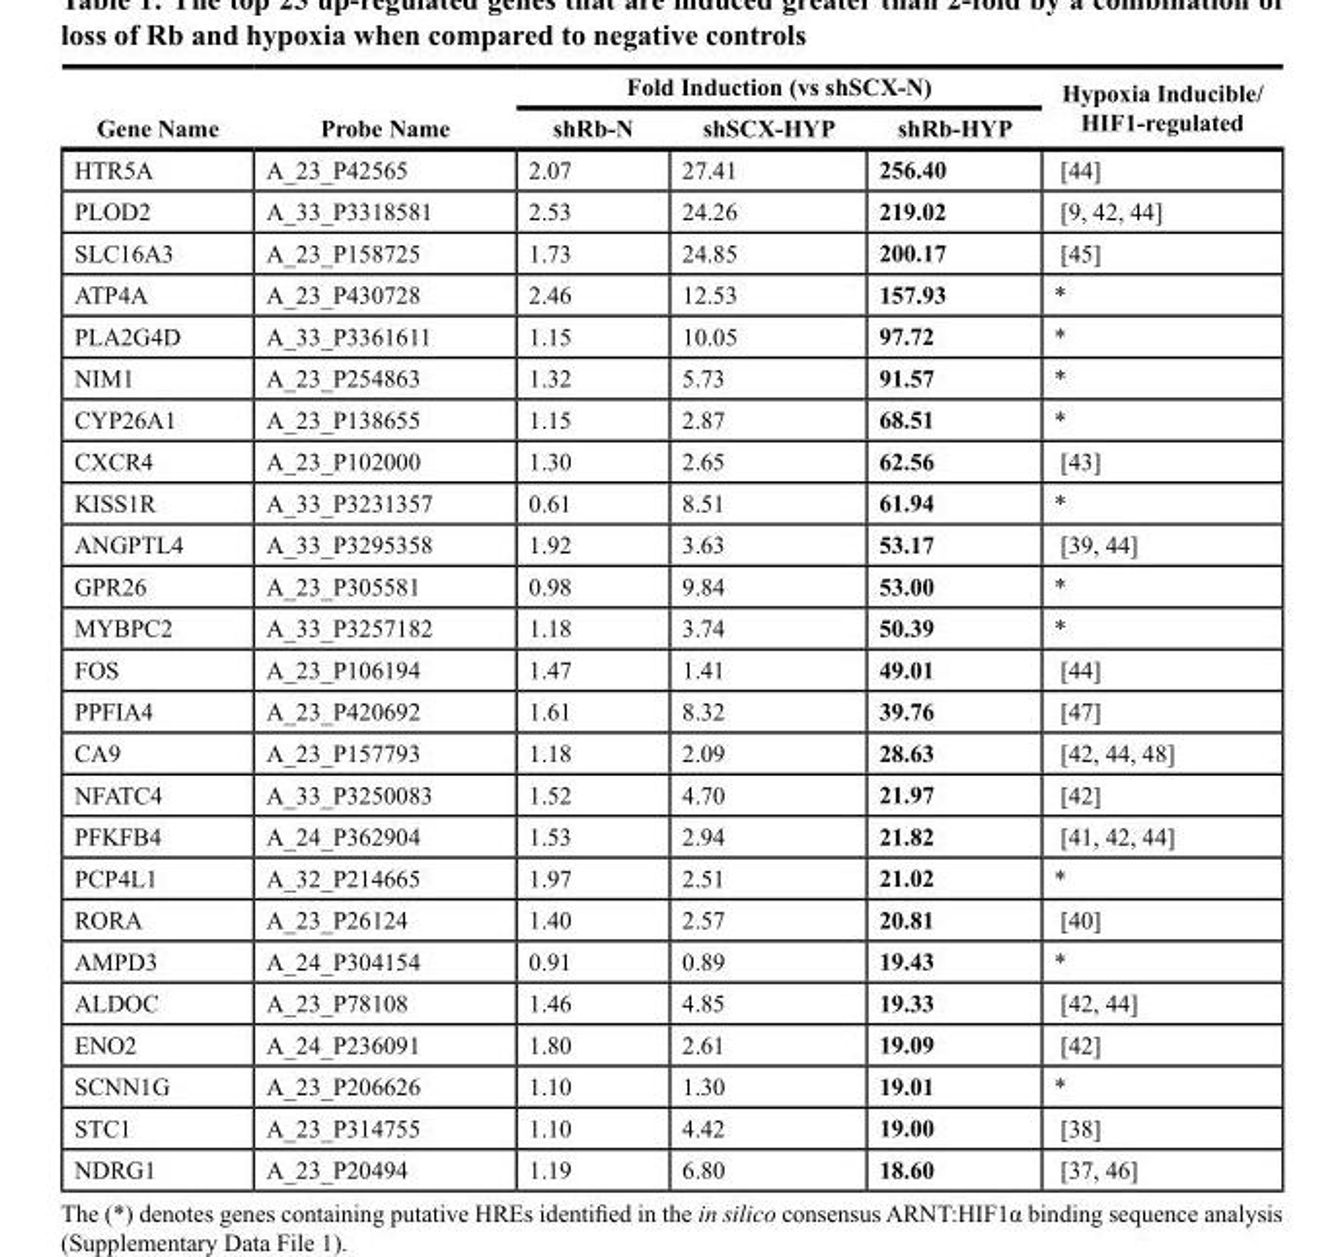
<table><thead><tr><td rowspan="2">Gene Name</td><td rowspan="2">Probe Name</td><td colspan="3">Fold Induction (vs shSCX-N)</td><td rowspan="2">Hypoxia Inducible/ HIF1-regulated</td></tr><tr><td>shRb-N</td><td>shSCX-HYP</td><td>shRb-HYP</td></tr></thead><tbody><tr><td>HTR5A</td><td>A_23_P42565</td><td>2.07</td><td>27.41</td><td>256.40</td><td>[44]</td></tr><tr><td>PLOD2</td><td>A_33_P3318581</td><td>2.53</td><td>24.26</td><td>219.02</td><td>[9, 42, 44]</td></tr><tr><td>SLC16A3</td><td>A_23_P158725</td><td>1.73</td><td>24.85</td><td>200.17</td><td>[45]</td></tr><tr><td>ATP4A</td><td>A_23_P430728</td><td>2.46</td><td>12.53</td><td>157.93</td><td>*</td></tr><tr><td>PLA2G4D</td><td>A_33_P3361611</td><td>1.15</td><td>10.05</td><td>97.72</td><td>*</td></tr><tr><td>NIM1</td><td>A_23_P254863</td><td>1.32</td><td>5.73</td><td>91.57</td><td>*</td></tr><tr><td>CYP26A1</td><td>A_23_P138655</td><td>1.15</td><td>2.87</td><td>68.51</td><td>*</td></tr><tr><td>CXCR4</td><td>A_23_P102000</td><td>1.30</td><td>2.65</td><td>62.56</td><td>[43]</td></tr><tr><td>KISS1R</td><td>A_33_P3231357</td><td>0.61</td><td>8.51</td><td>61.94</td><td>*</td></tr><tr><td>ANGPTL4</td><td>A_33_P3295358</td><td>1.92</td><td>3.63</td><td>53.17</td><td>[39, 44]</td></tr><tr><td>GPR26</td><td>A_23_P305581</td><td>0.98</td><td>9.84</td><td>53.00</td><td>*</td></tr><tr><td>MYBPC2</td><td>A_33_P3257182</td><td>1.18</td><td>3.74</td><td>50.39</td><td>*</td></tr><tr><td>FOS</td><td>A_23_P106194</td><td>1.47</td><td>1.41</td><td>49.01</td><td>[44]</td></tr><tr><td>PPFIA4</td><td>A_23_P420692</td><td>1.61</td><td>8.32</td><td>39.76</td><td>[47]</td></tr><tr><td>CA9</td><td>A_23_P157793</td><td>1.18</td><td>2.09</td><td>28.63</td><td>[42, 44, 48]</td></tr><tr><td>NFATC4</td><td>A_33_P3250083</td><td>1.52</td><td>4.70</td><td>21.97</td><td>[42]</td></tr><tr><td>PFKFB4</td><td>A_24_P362904</td><td>1.53</td><td>2.94</td><td>21.82</td><td>[41, 42, 44]</td></tr><tr><td>PCP4L1</td><td>A_32_P214665</td><td>1.97</td><td>2.51</td><td>21.02</td><td>*</td></tr><tr><td>RORA</td><td>A_23_P26124</td><td>1.40</td><td>2.57</td><td>20.81</td><td>[40]</td></tr><tr><td>AMPD3</td><td>A_24_P304154</td><td>0.91</td><td>0.89</td><td>19.43</td><td>*</td></tr><tr><td>ALDOC</td><td>A_23_P78108</td><td>1.46</td><td>4.85</td><td>19.33</td><td>[42, 44]</td></tr><tr><td>ENO2</td><td>A_24_P236091</td><td>1.80</td><td>2.61</td><td>19.09</td><td>[42]</td></tr><tr><td>SCNN1G</td><td>A_23_P206626</td><td>1.10</td><td>1.30</td><td>19.01</td><td>*</td></tr><tr><td>STC1</td><td>A_23_P314755</td><td>1.10</td><td>4.42</td><td>19.00</td><td>[38]</td></tr><tr><td>NDRG1</td><td>A_23_P20494</td><td>1.19</td><td>6.80</td><td>18.60</td><td>[37, 46]</td></tr></tbody></table>